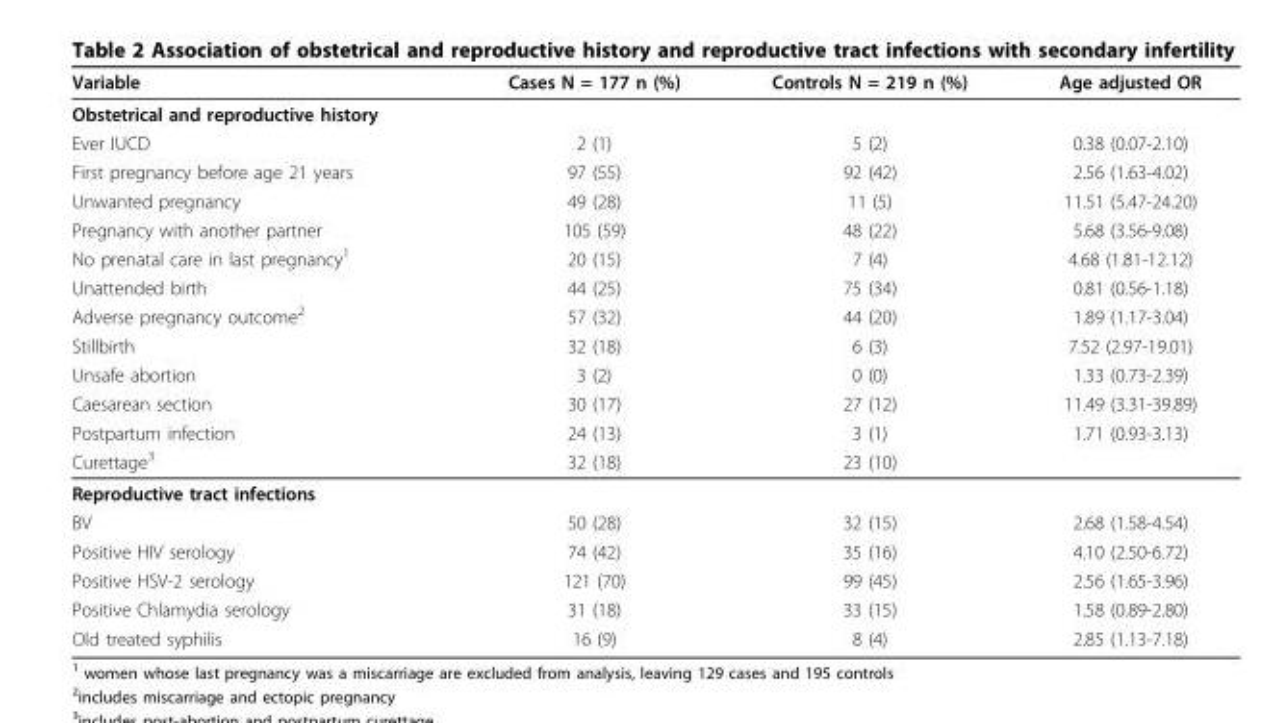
<table><thead><tr><td>Variable</td><td>Cases N = 177 n (%)</td><td>Controls N = 219 n (%)</td><td>Age adjusted OR</td></tr></thead><tbody><tr><td colspan="4">Obstetrical and reproductive history</td></tr><tr><td>Ever IUCD</td><td>2 (1)</td><td>5 (2)</td><td>0.38 (0.07-2.10)</td></tr><tr><td>First pregnancy before age 21 years</td><td>97 (55)</td><td>92 (42)</td><td>2.56 (1.63-4.02)</td></tr><tr><td>Unwanted pregnancy</td><td>49 (28)</td><td>11 (5)</td><td>11.51 (5.47-24.20)</td></tr><tr><td>Pregnancy with another partner</td><td>105 (59)</td><td>48 (22)</td><td>5.68 (3.56-9.08)</td></tr><tr><td>No prenatal care in last pregnancy<sup>1</sup></td><td>20 (15)</td><td>7 (4)</td><td>4.68 (1.81-12.12)</td></tr><tr><td>Unattended birth</td><td>44 (25)</td><td>75 (34)</td><td>0.81 (0.56-1.18)</td></tr><tr><td>Adverse pregnancy outcome<sup>2</sup></td><td>57 (32)</td><td>44 (20)</td><td>1.89 (1.17-3.04)</td></tr><tr><td>Stillbirth</td><td>32 (18)</td><td>6 (3)</td><td>7.52 (2.97-19.01)</td></tr><tr><td>Unsafe abortion</td><td>3 (2)</td><td>0 (0)</td><td>1.33 (0.73-2.39)</td></tr><tr><td>Caesarean section</td><td>30 (17)</td><td>27 (12)</td><td>11.49 (3.31-39.89)</td></tr><tr><td>Postpartum infection</td><td>24 (13)</td><td>3 (1)</td><td>1.71 (0.93-3.13)</td></tr><tr><td>Curettage<sup>3</sup></td><td>32 (18)</td><td>23 (10)</td><td></td></tr><tr><td colspan="4">Reproductive tract infections</td></tr><tr><td>BV</td><td>50 (28)</td><td>32 (15)</td><td>2.68 (1.58-4.54)</td></tr><tr><td>Positive HIV serology</td><td>74 (42)</td><td>35 (16)</td><td>4.10 (2.50-6.72)</td></tr><tr><td>Positive HSV-2 serology</td><td>121 (70)</td><td>99 (45)</td><td>2.56 (1.65-3.96)</td></tr><tr><td>Positive Chlamydia serology</td><td>31 (18)</td><td>33 (15)</td><td>1.58 (0.89-2.80)</td></tr><tr><td>Old treated syphilis</td><td>16 (9)</td><td>8 (4)</td><td>2.85 (1.13-7.18)</td></tr></tbody></table>